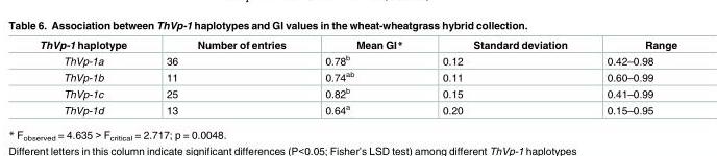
<table><thead><tr><td>ThVp-1 haplotype</td><td>Number of entries</td><td>Mean GI*</td><td>Standard deviation</td><td>Range</td></tr></thead><tbody><tr><td>ThVp-1a</td><td>36</td><td>0.78<sup>b</sup></td><td>0.12</td><td>0.42–0.98</td></tr><tr><td>ThVp-1b</td><td>11</td><td>0.74<sup>ab</sup></td><td>0.11</td><td>0.60–0.99</td></tr><tr><td>ThVp-1c</td><td>25</td><td>0.82<sup>b</sup></td><td>0.15</td><td>0.41–0.99</td></tr><tr><td>ThVp-1d</td><td>13</td><td>0.64<sup>a</sup></td><td>0.20</td><td>0.15–0.95</td></tr></tbody></table>